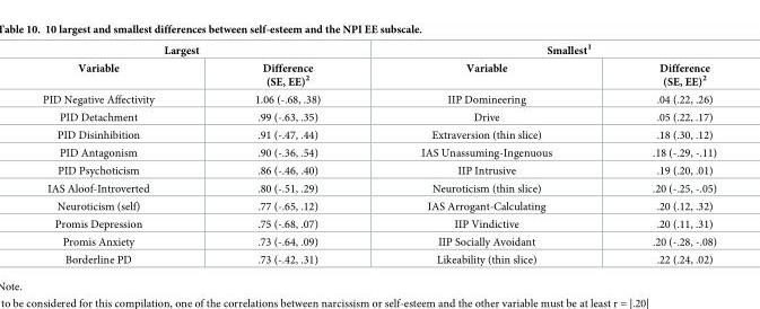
<table><thead><tr><td colspan="2">Largest</td><td colspan="2">Smallest<sup>1</sup></td></tr><tr><td>Variable</td><td>Difference (SE, EE)<sup>2</sup></td><td>Variable</td><td>Difference (SE, EE)<sup>2</sup></td></tr></thead><tbody><tr><td>PID Negative Affectivity</td><td>1.06 (-.68, .38)</td><td>IIP Domineering</td><td>.04 (.22, .26)</td></tr><tr><td>PID Detachment</td><td>.99 (-.63, .35)</td><td>Drive</td><td>.05 (.22, .17)</td></tr><tr><td>PID Disinhibition</td><td>.91 (-.47, .44)</td><td>Extraversion (thin slice)</td><td>.18 (.30, .12)</td></tr><tr><td>PID Antagonism</td><td>.90 (-.36, .54)</td><td>IAS Unassuming-Ingenuous</td><td>.18 (-.29, -.11)</td></tr><tr><td>PID Psychoticism</td><td>.86 (-.46, .40)</td><td>IIP Intrusive</td><td>.19 (.20, .01)</td></tr><tr><td>IAS Aloof-Introverted</td><td>.80 (-.51, .29)</td><td>Neuroticism (thin slice)</td><td>.20 (-.25, -.05)</td></tr><tr><td>Neuroticism (self)</td><td>.77 (-.65, .12)</td><td>IAS Arrogant-Calculating</td><td>.20 (.12, .32)</td></tr><tr><td>Promis Depression</td><td>.75 (-.68, .07)</td><td>IIP Vindictive</td><td>.20 (.11, .31)</td></tr><tr><td>Promis Anxiety</td><td>.73 (-.64, .09)</td><td>IIP Socially Avoidant</td><td>.20 (-.28, -.08)</td></tr><tr><td>Borderline PD</td><td>.73 (-.42, .31)</td><td>Likeability (thin slice)</td><td>.22 (.24, .02)</td></tr></tbody></table>